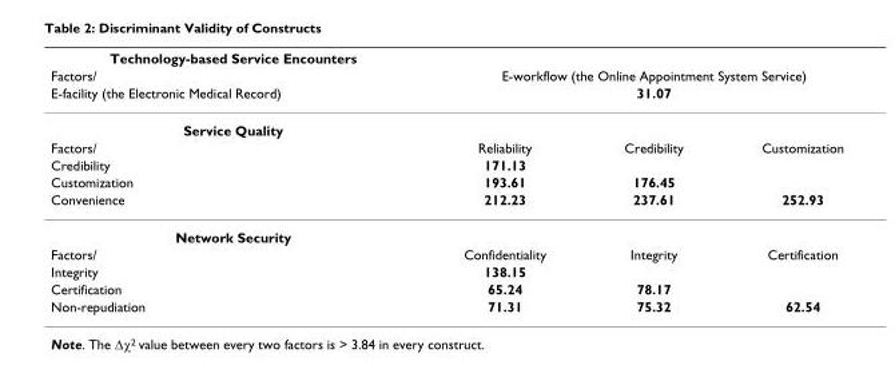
<table><thead><tr><td rowspan="3">Technology-based Service Encounters Factors/ E-facility (the Electronic Medical Record)</td><td></td><td></td><td></td></tr><tr><td rowspan="2" colspan="3">E-workflow (the Online Appointment System Service) 31.07</td></tr><tr></tr></thead><tbody><tr><td colspan="4">Service Quality</td></tr><tr><td>Factors/</td><td>Reliability</td><td>Credibility</td><td>Customization</td></tr><tr><td>Credibility</td><td>171.13</td><td></td><td></td></tr><tr><td>Customization</td><td>193.61</td><td>176.45</td><td></td></tr><tr><td>Convenience</td><td>212.23</td><td>237.61</td><td>252.93</td></tr><tr><td colspan="4">Network Security</td></tr><tr><td>Factors/</td><td>Confidentiality</td><td>Integrity</td><td>Certification</td></tr><tr><td>Integrity</td><td>138.15</td><td></td><td></td></tr><tr><td>Certification</td><td>65.24</td><td>78.17</td><td></td></tr><tr><td>Non-repudiation</td><td>71.31</td><td>75.32</td><td>62.54</td></tr></tbody></table>